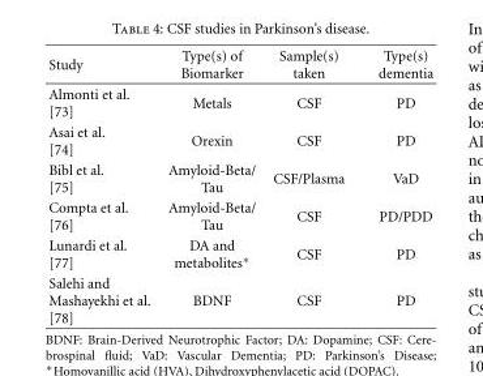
<table><thead><tr><td>Study</td><td>Type(s) of Biomarker</td><td>Sample(s) taken</td><td>Type(s) dementia</td></tr></thead><tbody><tr><td>Almonti et al. [73]</td><td>Metals</td><td>CSF</td><td>PD</td></tr><tr><td>Asai et al. [74]</td><td>Orexin</td><td>CSF</td><td>PD</td></tr><tr><td>Bibl et al. [75]</td><td>Amyloid-Beta/ Tau</td><td>CSF/Plasma</td><td>VaD</td></tr><tr><td>Compta et al. [76]</td><td>Amyloid-Beta/ Tau</td><td>CSF</td><td>PD/PDD</td></tr><tr><td>Lunardi et al. [77]</td><td>DA and metabolites∗</td><td>CSF</td><td>PD</td></tr><tr><td>Salehi and Mashayekhi et al. [78]</td><td>BDNF</td><td>CSF</td><td>PD</td></tr></tbody></table>